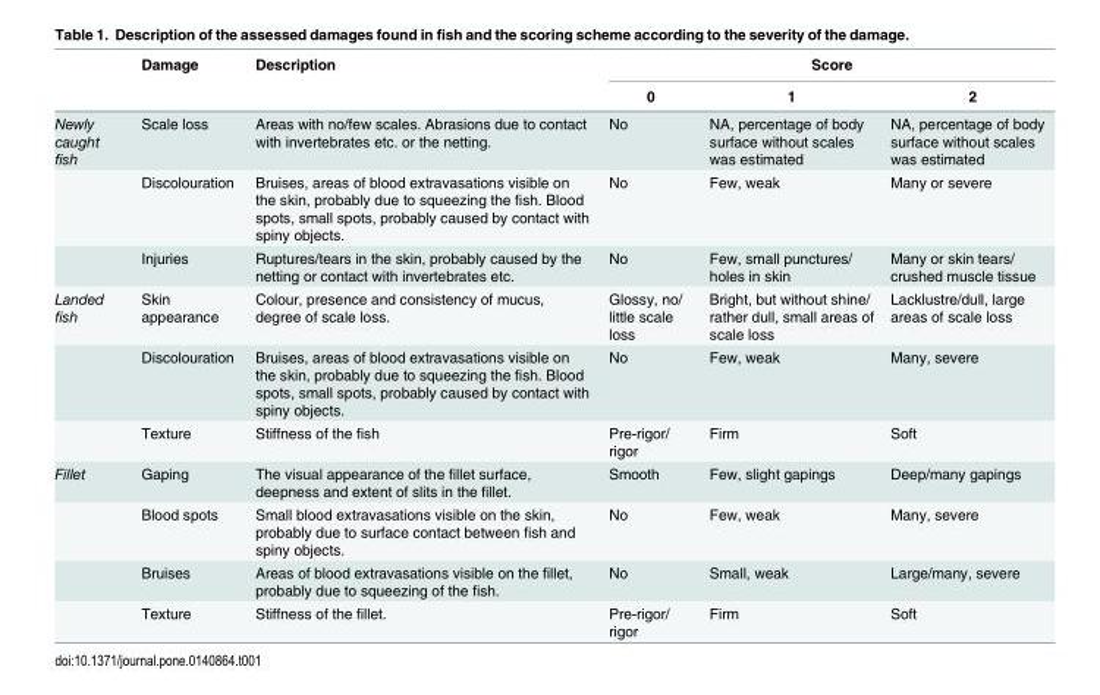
<table><thead><tr><td rowspan="2"></td><td rowspan="2">Damage</td><td rowspan="2">Description</td><td colspan="3">Score</td></tr><tr><td>0</td><td>1</td><td>2</td></tr></thead><tbody><tr><td rowspan="3">Newly caught fish</td><td>Scale loss</td><td>Areas with no/few scales. Abrasions due to contact with invertebrates etc. or the netting.</td><td>No</td><td>NA, percentage of body surface without scales was estimated</td><td>NA, percentage of body surface without scales was estimated</td></tr><tr><td>Discolouration</td><td>Bruises, areas of blood extravasations visible on the skin, probably due to squeezing the fish. Blood spots, small spots, probably caused by contact with spiny objects.</td><td>No</td><td>Few, weak</td><td>Many or severe</td></tr><tr><td>Injuries</td><td>Ruptures/tears in the skin, probably caused by the netting or contact with invertebrates etc.</td><td>No</td><td>Few, small punctures/ holes in skin</td><td>Many or skin tears/ crushed muscle tissue</td></tr><tr><td rowspan="3">Landed fish</td><td>Skin appearance</td><td>Colour, presence and consistency of mucus, degree of scale loss.</td><td>Glossy, no/ little scale loss</td><td>Bright, but without shine/ rather dull, small areas of scale loss</td><td>Lacklustre/dull, large areas of scale loss</td></tr><tr><td>Discolouration</td><td>Bruises, areas of blood extravasations visible on the skin, probably due to squeezing the fish. Blood spots, small spots, probably caused by contact with spiny objects.</td><td>No</td><td>Few, weak</td><td>Many, severe</td></tr><tr><td>Texture</td><td>Stiffness of the fish</td><td>Pre-rigor/ rigor</td><td>Firm</td><td>Soft</td></tr><tr><td rowspan="4">Fillet</td><td>Gaping</td><td>The visual appearance of the fillet surface, deepness and extent of slits in the fillet.</td><td>Smooth</td><td>Few, slight gapings</td><td>Deep/many gapings</td></tr><tr><td>Blood spots</td><td>Small blood extravasations visible on the skin, probably due to surface contact between fish and spiny objects.</td><td>No</td><td>Few, weak</td><td>Many, severe</td></tr><tr><td>Bruises</td><td>Areas of blood extravasations visible on the fillet, probably due to squeezing of the fish.</td><td>No</td><td>Small, weak</td><td>Large/many, severe</td></tr><tr><td>Texture</td><td>Stiffness of the fillet.</td><td>Pre-rigor/ rigor</td><td>Firm</td><td>Soft</td></tr></tbody></table>